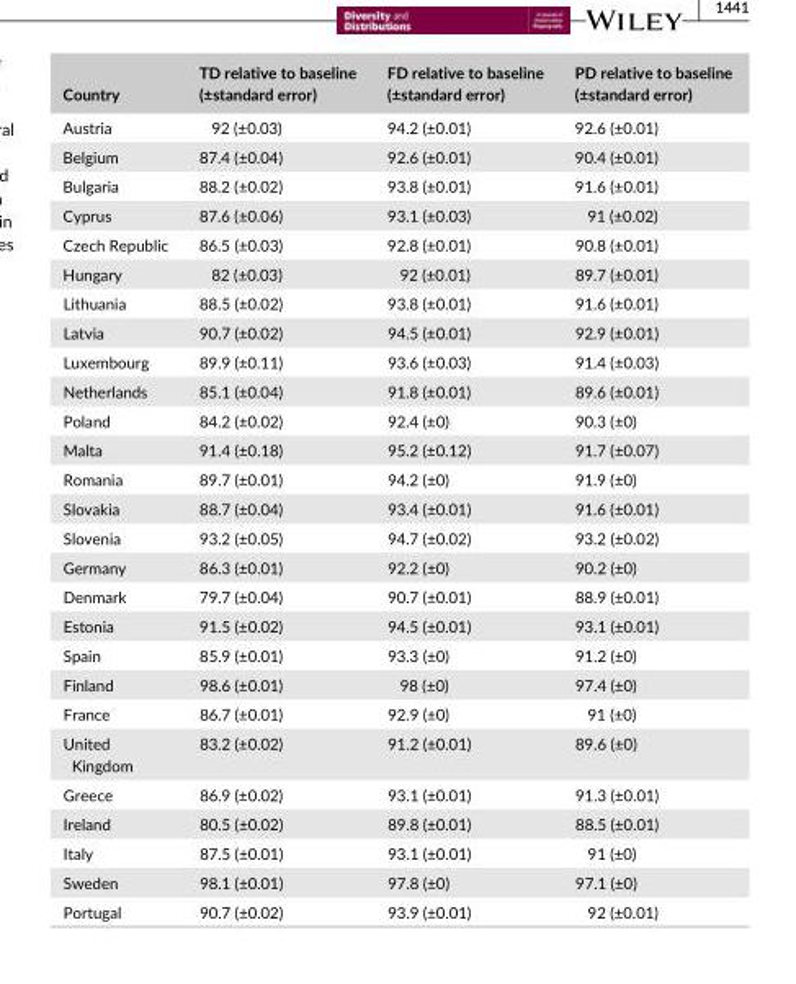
<table><thead><tr><td>Country</td><td>TD relative to baseline (±standard error)</td><td>FD relative to baseline (±standard error)</td><td>PD relative to baseline (±standard error)</td></tr></thead><tbody><tr><td>Austria</td><td>92 (±0.03)</td><td>94.2 (±0.01)</td><td>92.6 (±0.01)</td></tr><tr><td>Belgium</td><td>87.4 (±0.04)</td><td>92.6 (±0.01)</td><td>90.4 (±0.01)</td></tr><tr><td>Bulgaria</td><td>88.2 (±0.02)</td><td>93.8 (±0.01)</td><td>91.6 (±0.01)</td></tr><tr><td>Cyprus</td><td>87.6 (±0.06)</td><td>93.1 (±0.03)</td><td>91 (±0.02)</td></tr><tr><td>Czech Republic</td><td>86.5 (±0.03)</td><td>92.8 (±0.01)</td><td>90.8 (±0.01)</td></tr><tr><td>Hungary</td><td>82 (±0.03)</td><td>92 (±0.01)</td><td>89.7 (±0.01)</td></tr><tr><td>Lithuania</td><td>88.5 (±0.02)</td><td>93.8 (±0.01)</td><td>91.6 (±0.01)</td></tr><tr><td>Latvia</td><td>90.7 (±0.02)</td><td>94.5 (±0.01)</td><td>92.9 (±0.01)</td></tr><tr><td>Luxembourg</td><td>89.9 (±0.11)</td><td>93.6 (±0.03)</td><td>91.4 (±0.03)</td></tr><tr><td>Netherlands</td><td>85.1 (±0.04)</td><td>91.8 (±0.01)</td><td>89.6 (±0.01)</td></tr><tr><td>Poland</td><td>84.2 (±0.02)</td><td>92.4 (±0)</td><td>90.3 (±0)</td></tr><tr><td>Malta</td><td>91.4 (±0.18)</td><td>95.2 (±0.12)</td><td>91.7 (±0.07)</td></tr><tr><td>Romania</td><td>89.7 (±0.01)</td><td>94.2 (±0)</td><td>91.9 (±0)</td></tr><tr><td>Slovakia</td><td>88.7 (±0.04)</td><td>93.4 (±0.01)</td><td>91.6 (±0.01)</td></tr><tr><td>Slovenia</td><td>93.2 (±0.05)</td><td>94.7 (±0.02)</td><td>93.2 (±0.02)</td></tr><tr><td>Germany</td><td>86.3 (±0.01)</td><td>92.2 (±0)</td><td>90.2 (±0)</td></tr><tr><td>Denmark</td><td>79.7 (±0.04)</td><td>90.7 (±0.01)</td><td>88.9 (±0.01)</td></tr><tr><td>Estonia</td><td>91.5 (±0.02)</td><td>94.5 (±0.01)</td><td>93.1 (±0.01)</td></tr><tr><td>Spain</td><td>85.9 (±0.01)</td><td>93.3 (±0)</td><td>91.2 (±0)</td></tr><tr><td>Finland</td><td>98.6 (±0.01)</td><td>98 (±0)</td><td>97.4 (±0)</td></tr><tr><td>France</td><td>86.7 (±0.01)</td><td>92.9 (±0)</td><td>91 (±0)</td></tr><tr><td>United Kingdom</td><td>83.2 (±0.02)</td><td>91.2 (±0.01)</td><td>89.6 (±0)</td></tr><tr><td>Greece</td><td>86.9 (±0.02)</td><td>93.1 (±0.01)</td><td>91.3 (±0.01)</td></tr><tr><td>Ireland</td><td>80.5 (±0.02)</td><td>89.8 (±0.01)</td><td>88.5 (±0.01)</td></tr><tr><td>Italy</td><td>87.5 (±0.01)</td><td>93.1 (±0.01)</td><td>91 (±0)</td></tr><tr><td>Sweden</td><td>98.1 (±0.01)</td><td>97.8 (±0)</td><td>97.1 (±0)</td></tr><tr><td>Portugal</td><td>90.7 (±0.02)</td><td>93.9 (±0.01)</td><td>92 (±0.01)</td></tr></tbody></table>